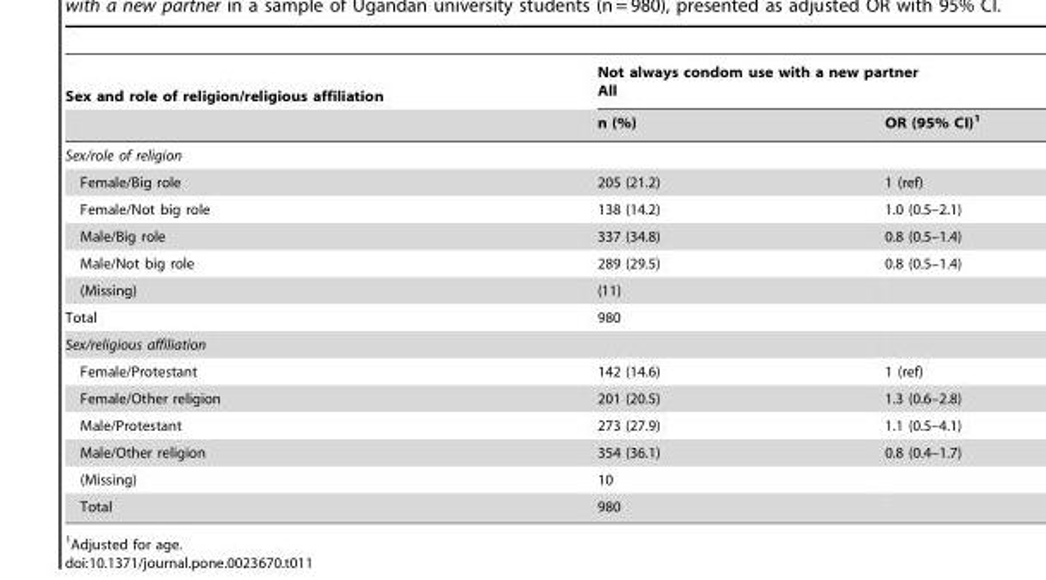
<table><thead><tr><td rowspan="2">Sex and role of religion/religious affiliation</td><td colspan="2">Not always condom use with a new partner All</td></tr><tr><td>n (%)</td><td>OR (95% CI)<sup>1</sup></td></tr></thead><tbody><tr><td colspan="3">Sex/role of religion</td></tr><tr><td>Female/Big role</td><td>205 (21.2)</td><td>1 (ref)</td></tr><tr><td>Female/Not big role</td><td>138 (14.2)</td><td>1.0 (0.5–2.1)</td></tr><tr><td>Male/Big role</td><td>337 (34.8)</td><td>0.8 (0.5–1.4)</td></tr><tr><td>Male/Not big role</td><td>289 (29.5)</td><td>0.8 (0.5–1.4)</td></tr><tr><td>(Missing)</td><td>(11)</td><td></td></tr><tr><td>Total</td><td>980</td><td></td></tr><tr><td colspan="3">Sex/religious affiliation</td></tr><tr><td>Female/Protestant</td><td>142 (14.6)</td><td>1 (ref)</td></tr><tr><td>Female/Other religion</td><td>201 (20.5)</td><td>1.3 (0.6–2.8)</td></tr><tr><td>Male/Protestant</td><td>273 (27.9)</td><td>1.1 (0.5–4.1)</td></tr><tr><td>Male/Other religion</td><td>354 (36.1)</td><td>0.8 (0.4–1.7)</td></tr><tr><td>(Missing)</td><td>10</td><td></td></tr><tr><td>Total</td><td>980</td><td></td></tr></tbody></table>